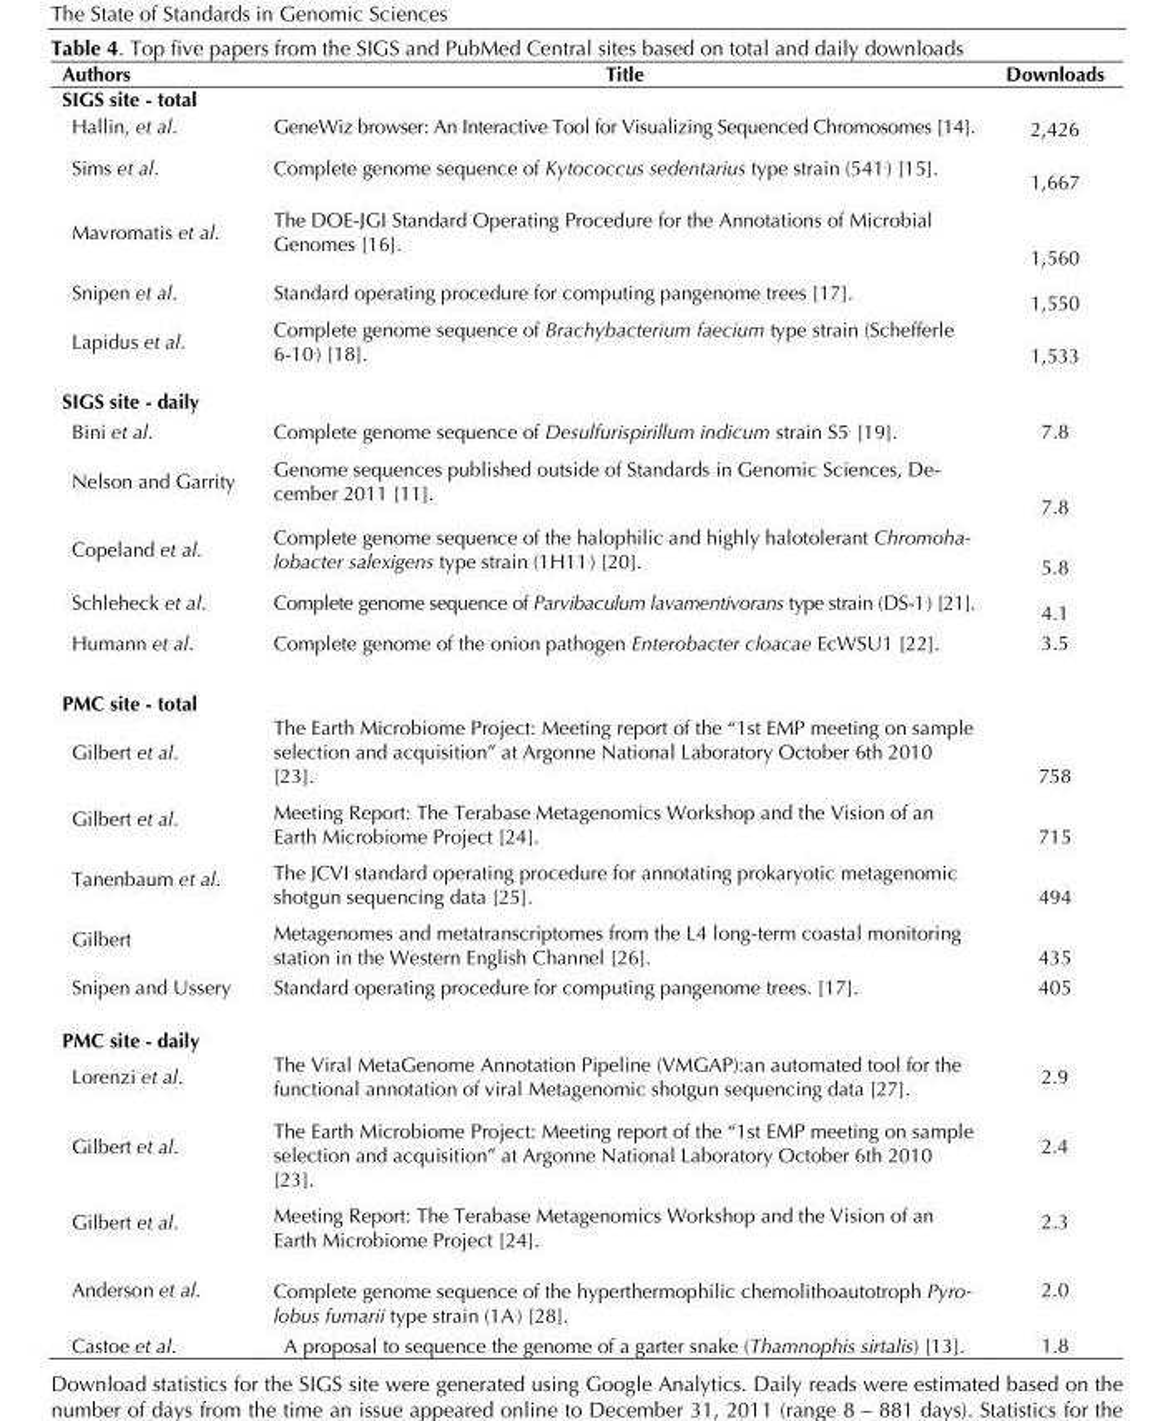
<table><thead><tr><td>Authors</td><td>Title</td><td>Downloads</td></tr></thead><tbody><tr><td colspan="3">SIGS site - total</td></tr><tr><td>Hallin, et al.</td><td>GeneWiz browser: An Interactive Tool for Visualizing Sequenced Chromosomes [14].</td><td>2,426</td></tr><tr><td>Sims et al.</td><td>Complete genome sequence of Kytococcus sedentarius type strain (541 <sup>T</sup>) [15].</td><td>1,667</td></tr><tr><td>Mavromatis et al.</td><td>The DOE-JGI Standard Operating Procedure for the Annotations of Microbial Genomes [16].</td><td>1,560</td></tr><tr><td>Snipen et al.</td><td>Standard operating procedure for computing pangenome trees [17].</td><td>1,550</td></tr><tr><td>Lapidus et al.</td><td>Complete genome sequence of Brachybacterium faecium type strain (Schefferle 6-10 <sup>T</sup>) [18].</td><td>1,533</td></tr><tr><td colspan="3">SIGS site - daily</td></tr><tr><td>Bini et al.</td><td>Complete genome sequence of Desulfurispirillum indicum strain S5 <sup>T</sup> [19].</td><td>7.8</td></tr><tr><td>Nelson and Garrity</td><td>Genome sequences published outside of Standards in Genomic Sciences, De- cember 2011 [11].</td><td>7.8</td></tr><tr><td>Copeland et al.</td><td>Complete genome sequence of the halophilic and highly halotolerant Chromoha- lobacter salexigens type strain (1H11 T) [20].</td><td>5.8</td></tr><tr><td>Schleheck et al.</td><td>Complete genome sequence of Parvibaculum lavamentivorans type strain (DS-1 <sup>T</sup>) [21].</td><td>4.1</td></tr><tr><td>Humann et al.</td><td>Complete genome of the onion pathogen Enterobacter cloacae EcWSU1 [22].</td><td>3.5</td></tr><tr><td colspan="3">PMC site - total</td></tr><tr><td>Gilbert et al.</td><td>The Earth Microbiome Project: Meeting report of the “1st EMP meeting on sample selection and acquisition” at Argonne National Laboratory October 6th 2010 [23].</td><td>758</td></tr><tr><td>Gilbert et al.</td><td>Meeting Report: The Terabase Metagenomics Workshop and the Vision of an Earth Microbiome Project [24].</td><td>715</td></tr><tr><td>Tanenbaum et al.</td><td>The JCVI standard operating procedure for annotating prokaryotic metagenomic shotgun sequencing data [25].</td><td>494</td></tr><tr><td>Gilbert</td><td>Metagenomes and metatranscriptomes from the L4 long-term coastal monitoring station in the Western English Channel [26].</td><td>435</td></tr><tr><td>Snipen and Ussery</td><td>Standard operating procedure for computing pangenome trees. [17].</td><td>405</td></tr><tr><td colspan="3">PMC site - daily</td></tr><tr><td>Lorenzi et al.</td><td>The Viral MetaGenome Annotation Pipeline (VMGAP):an automated tool for the functional annotation of viral Metagenomic shotgun sequencing data [27].</td><td>2.9</td></tr><tr><td>Gilbert et al.</td><td>The Earth Microbiome Project: Meeting report of the “1st EMP meeting on sample selection and acquisition” at Argonne National Laboratory October 6th 2010 [23].</td><td>2.4</td></tr><tr><td>Gilbert et al.</td><td>Meeting Report: The Terabase Metagenomics Workshop and the Vision of an Earth Microbiome Project [24].</td><td>2.3</td></tr><tr><td>Anderson et al.</td><td>Complete genome sequence of the hyperthermophilic chemolithoautotroph Pyro- lobus fumarii type strain (1A T) [28].</td><td>2.0</td></tr><tr><td>Castoe et al.</td><td>A proposal to sequence the genome of a garter snake (Thamnophis sirtalis) [13].</td><td>1.8</td></tr></tbody></table>